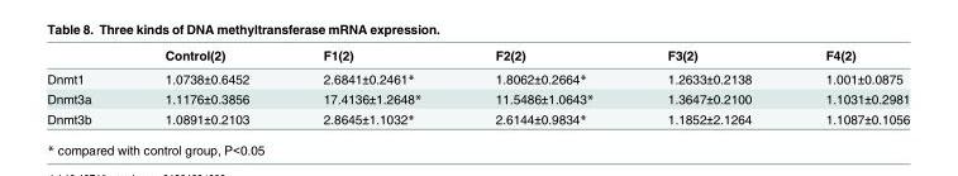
<table><thead><tr><td></td><td>Control(2)</td><td>F1(2)</td><td>F2(2)</td><td>F3(2)</td><td>F4(2)</td></tr></thead><tbody><tr><td>Dnmt1</td><td>1.0738±0.6452</td><td>2.6841±0.2461*</td><td>1.8062±0.2664*</td><td>1.2633±0.2138</td><td>1.001±0.0875</td></tr><tr><td>Dnmt3a</td><td>1.1176±0.3856</td><td>17.4136±1.2648*</td><td>11.5486±1.0643*</td><td>1.3647±0.2100</td><td>1.1031±0.2981</td></tr><tr><td>Dnmt3b</td><td>1.0891±0.2103</td><td>2.8645±1.1032*</td><td>2.6144±0.9834*</td><td>1.1852±2.1264</td><td>1.1087±0.1056</td></tr></tbody></table>